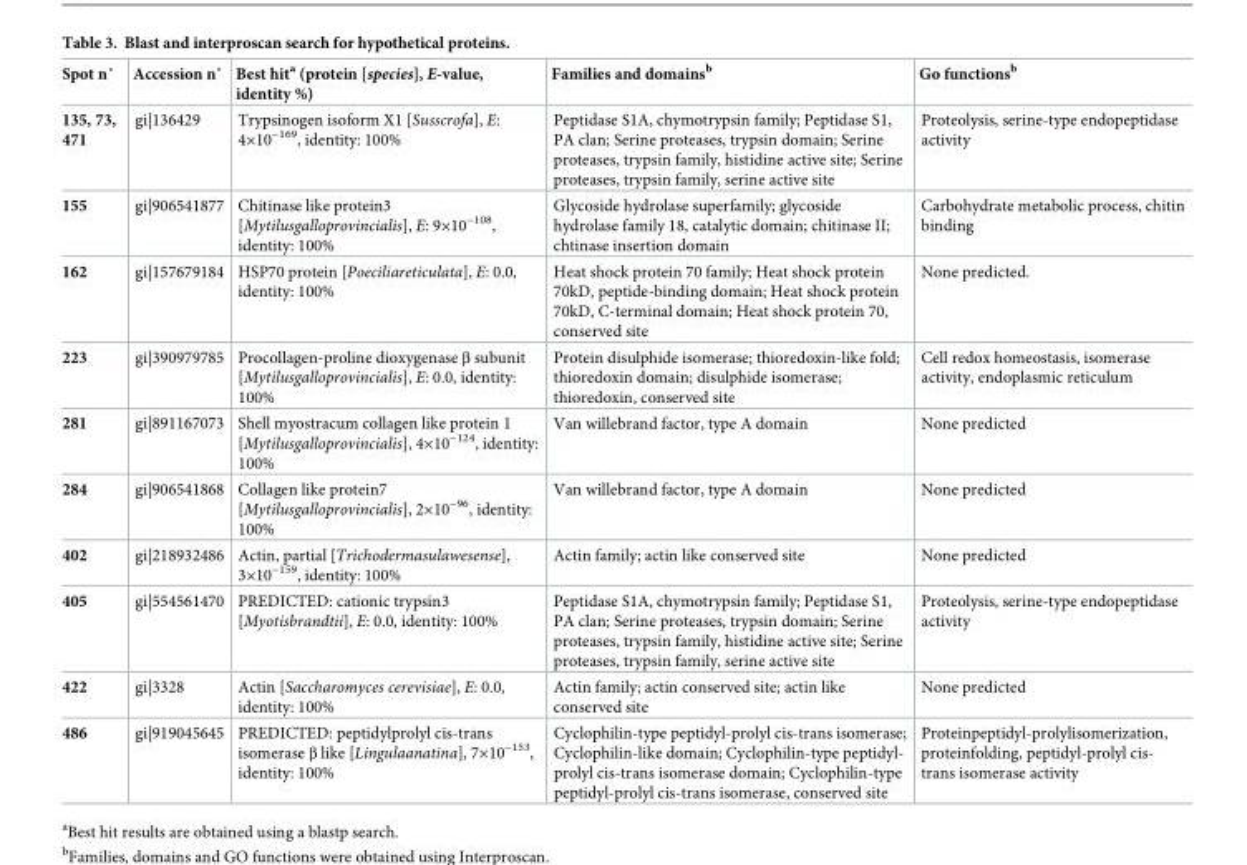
<table><thead><tr><td>Spot n˚</td><td>Accession n˚</td><td>Best hit<sup>a</sup> (protein [species], E-value, identity %)</td><td>Families and domains<sup>b</sup></td><td>Go functions<sup>b</sup></td></tr></thead><tbody><tr><td>135, 73, 471</td><td>gi|136429</td><td>Trypsinogen isoform X1 [Susscrofa], E: 4×10<sup>−169</sup>, identity: 100%</td><td>Peptidase S1A, chymotrypsin family; Peptidase S1, PA clan; Serine proteases, trypsin domain; Serine proteases, trypsin family, histidine active site; Serine proteases, trypsin family, serine active site</td><td>Proteolysis, serine-type endopeptidase activity</td></tr><tr><td>155</td><td>gi|906541877</td><td>Chitinase like protein3 [Mytilusgalloprovincialis], E: 9×10<sup>−108</sup>, identity: 100%</td><td>Glycoside hydrolase superfamily; glycoside hydrolase family 18, catalytic domain; chitinase II; chtinase insertion domain</td><td>Carbohydrate metabolic process, chitin binding</td></tr><tr><td>162</td><td>gi|157679184</td><td>HSP70 protein [Poeciliareticulata], E: 0.0, identity: 100%</td><td>Heat shock protein 70 family; Heat shock protein 70kD, peptide-binding domain; Heat shock protein 70kD, C-terminal domain; Heat shock protein 70, conserved site</td><td>None predicted.</td></tr><tr><td>223</td><td>gi|390979785</td><td>Procollagen-proline dioxygenase β subunit [Mytilusgalloprovincialis], E: 0.0, identity: 100%</td><td>Protein disulphide isomerase; thioredoxin-like fold; thioredoxin domain; disulphide isomerase; thioredoxin, conserved site</td><td>Cell redox homeostasis, isomerase activity, endoplasmic reticulum</td></tr><tr><td>281</td><td>gi|891167073</td><td>Shell myostracum collagen like protein 1 [Mytilusgalloprovincialis], 4×10<sup>−124</sup>, identity: 100%</td><td>Van willebrand factor, type A domain</td><td>None predicted</td></tr><tr><td>284</td><td>gi|906541868</td><td>Collagen like protein7 [Mytilusgalloprovincialis], 2×10<sup>−96</sup>, identity: 100%</td><td>Van willebrand factor, type A domain</td><td>None predicted</td></tr><tr><td>402</td><td>gi|218932486</td><td>Actin, partial [Trichodermasulawesense], 3×10<sup>−159</sup>, identity: 100%</td><td>Actin family; actin like conserved site</td><td>None predicted</td></tr><tr><td>405</td><td>gi|554561470</td><td>PREDICTED: cationic trypsin3 [Myotisbrandtii], E: 0.0, identity: 100%</td><td>Peptidase S1A, chymotrypsin family; Peptidase S1, PA clan; Serine proteases, trypsin domain; Serine proteases, trypsin family, histidine active site; Serine proteases, trypsin family, serine active site</td><td>Proteolysis, serine-type endopeptidase activity</td></tr><tr><td>422</td><td>gi|3328</td><td>Actin [Saccharomyces cerevisiae], E: 0.0, identity: 100%</td><td>Actin family; actin conserved site; actin like conserved site</td><td>None predicted</td></tr><tr><td>486</td><td>gi|919045645</td><td>PREDICTED: peptidylprolyl cis-trans isomerase β like [Lingulaanatina], 7×10<sup>−153</sup>, identity: 100%</td><td>Cyclophilin-type peptidyl-prolyl cis-trans isomerase; Cyclophilin-like domain; Cyclophilin-type peptidyl- prolyl cis-trans isomerase domain; Cyclophilin-type peptidyl-prolyl cis-trans isomerase, conserved site</td><td>Proteinpeptidyl-prolylisomerization, proteinfolding, peptidyl-prolyl cis- trans isomerase activity</td></tr></tbody></table>